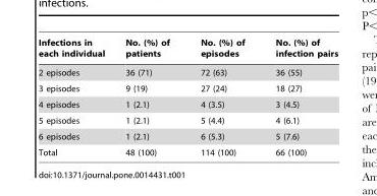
<table><thead><tr><td>Infections in each individual</td><td>No. (%) of patients</td><td>No. (%) of episodes</td><td>No. (%) of infection pairs</td></tr></thead><tbody><tr><td>2 episodes</td><td>36 (71)</td><td>72 (63)</td><td>36 (55)</td></tr><tr><td>3 episodes</td><td>9 (19)</td><td>27 (24)</td><td>18 (27)</td></tr><tr><td>4 episodes</td><td>1 (2.1)</td><td>4 (3.5)</td><td>3 (4.5)</td></tr><tr><td>5 episodes</td><td>1 (2.1)</td><td>5 (4.4)</td><td>4 (6.1)</td></tr><tr><td>6 episodes</td><td>1 (2.1)</td><td>6 (5.3)</td><td>5 (7.6)</td></tr><tr><td>Total</td><td>48 (100)</td><td>114 (100)</td><td>66 (100)</td></tr></tbody></table>